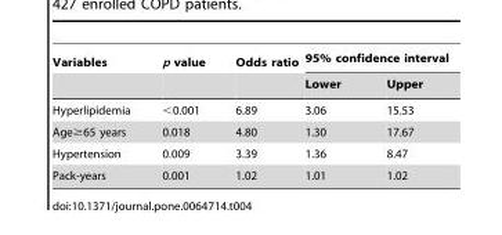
<table><thead><tr><td rowspan="2">Variables</td><td rowspan="2">p value</td><td rowspan="2">Odds ratio</td><td colspan="2">95% confidence interval</td></tr><tr><td>Lower</td><td>Upper</td></tr></thead><tbody><tr><td>Hyperlipidemia</td><td>&lt;0.001</td><td>6.89</td><td>3.06</td><td>15.53</td></tr><tr><td>Age≥65 years</td><td>0.018</td><td>4.80</td><td>1.30</td><td>17.67</td></tr><tr><td>Hypertension</td><td>0.009</td><td>3.39</td><td>1.36</td><td>8.47</td></tr><tr><td>Pack-years</td><td>0.001</td><td>1.02</td><td>1.01</td><td>1.02</td></tr></tbody></table>